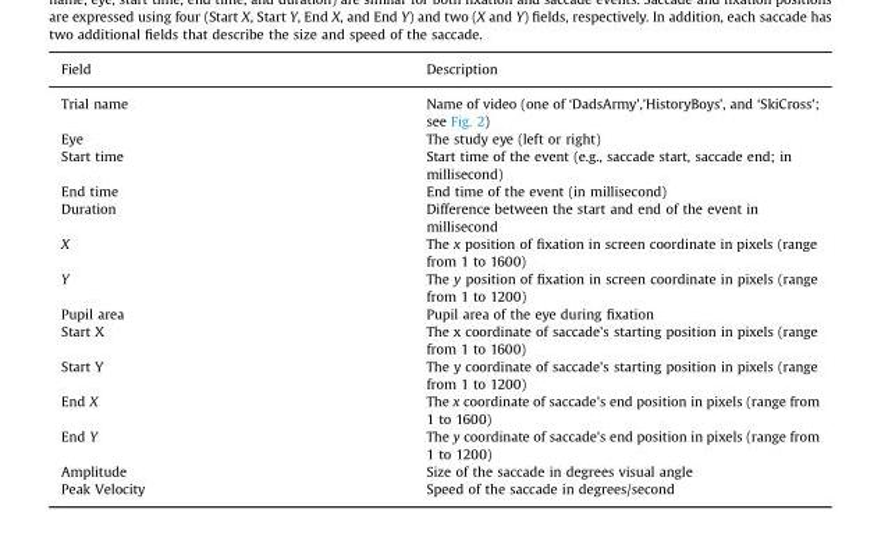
<table><thead><tr><td>Field</td><td>Description</td></tr></thead><tbody><tr><td>Trial name</td><td>Name of video (one of ‘DadsArmy’,’HistoryBoys’, and ‘SkiCross’; see Fig. 2)</td></tr><tr><td>Eye</td><td>The study eye (left or right)</td></tr><tr><td>Start time</td><td>Start time of the event (e.g., saccade start, saccade end; in millisecond)</td></tr><tr><td>End time</td><td>End time of the event (in millisecond)</td></tr><tr><td>Duration</td><td>Difference between the start and end of the event in millisecond</td></tr><tr><td>X</td><td>The x position of fixation in screen coordinate in pixels (range from 1 to 1600)</td></tr><tr><td>Y</td><td>The y position of fixation in screen coordinate in pixels (range from 1 to 1200)</td></tr><tr><td>Pupil area</td><td>Pupil area of the eye during fixation</td></tr><tr><td>Start X</td><td>The x coordinate of saccade&#x27;s starting position in pixels (range from 1 to 1600)</td></tr><tr><td>Start Y</td><td>The y coordinate of saccade&#x27;s starting position in pixels (range from 1 to 1200)</td></tr><tr><td>End X</td><td>The x coordinate of saccade&#x27;s end position in pixels (range from 1 to 1600)</td></tr><tr><td>End Y</td><td>The y coordinate of saccade&#x27;s end position in pixels (range from 1 to 1200)</td></tr><tr><td>Amplitude</td><td>Size of the saccade in degrees visual angle</td></tr><tr><td>Peak Velocity</td><td>Speed of the saccade in degrees/second</td></tr></tbody></table>